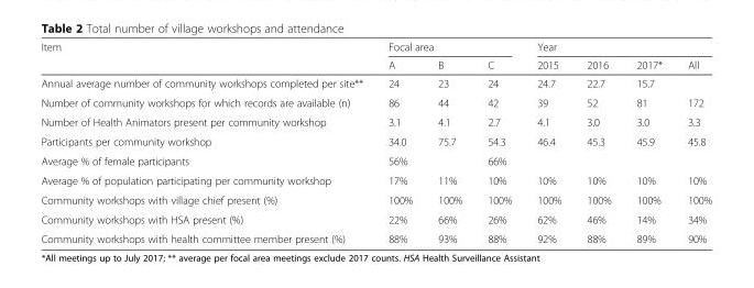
<table><thead><tr><td rowspan="2">Item</td><td colspan="3">Focal area</td><td colspan="4">Year</td></tr><tr><td>A</td><td>B</td><td>C</td><td>2015</td><td>2016</td><td>2017*</td><td>All</td></tr></thead><tbody><tr><td>Annual average number of community workshops completed per site**</td><td>24</td><td>23</td><td>24</td><td>24.7</td><td>22.7</td><td>15.7</td><td></td></tr><tr><td>Number of community workshops for which records are available (n)</td><td>86</td><td>44</td><td>42</td><td>39</td><td>52</td><td>81</td><td>172</td></tr><tr><td>Number of Health Animators present per community workshop</td><td>3.1</td><td>4.1</td><td>2.7</td><td>4.1</td><td>3.0</td><td>3.0</td><td>3.3</td></tr><tr><td>Participants per community workshop</td><td>34.0</td><td>75.7</td><td>54.3</td><td>46.4</td><td>45.3</td><td>45.9</td><td>45.8</td></tr><tr><td>Average % of female participants</td><td>56%</td><td></td><td>66%</td><td></td><td></td><td></td><td></td></tr><tr><td>Average % of population participating per community workshop</td><td>17%</td><td>11%</td><td>10%</td><td>10%</td><td>10%</td><td>10%</td><td>10%</td></tr><tr><td>Community workshops with village chief present (%)</td><td>100%</td><td>100%</td><td>100%</td><td>100%</td><td>100%</td><td>100%</td><td>100%</td></tr><tr><td>Community workshops with HSA present (%)</td><td>22%</td><td>66%</td><td>26%</td><td>62%</td><td>46%</td><td>14%</td><td>34%</td></tr><tr><td>Community workshops with health committee member present (%)</td><td>88%</td><td>93%</td><td>88%</td><td>92%</td><td>88%</td><td>89%</td><td>90%</td></tr></tbody></table>